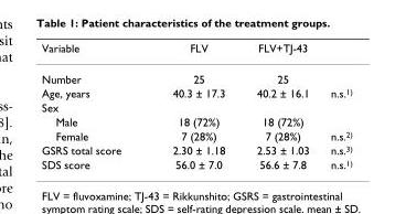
<table><thead><tr><td>Variable</td><td>FLV</td><td>FLV+TJ-43</td><td></td></tr></thead><tbody><tr><td>Number</td><td>25</td><td>25</td><td></td></tr><tr><td>Age, years</td><td>40.3 ± 17.3</td><td>40.2 ± 16.1</td><td>n.s.<sup>1)</sup></td></tr><tr><td colspan="4">Sex</td></tr><tr><td>Male</td><td>18 (72%)</td><td>18 (72%)</td><td></td></tr><tr><td>Female</td><td>7 (28%)</td><td>7 (28%)</td><td>n.s.<sup>2)</sup></td></tr><tr><td>GSRS total score</td><td>2.30 ± 1.18</td><td>2.53 ± 1.03</td><td>n.s.<sup>3)</sup></td></tr><tr><td>SDS score</td><td>56.0 ± 7.0</td><td>56.6 ± 7.8</td><td>n.s.<sup>1)</sup></td></tr></tbody></table>